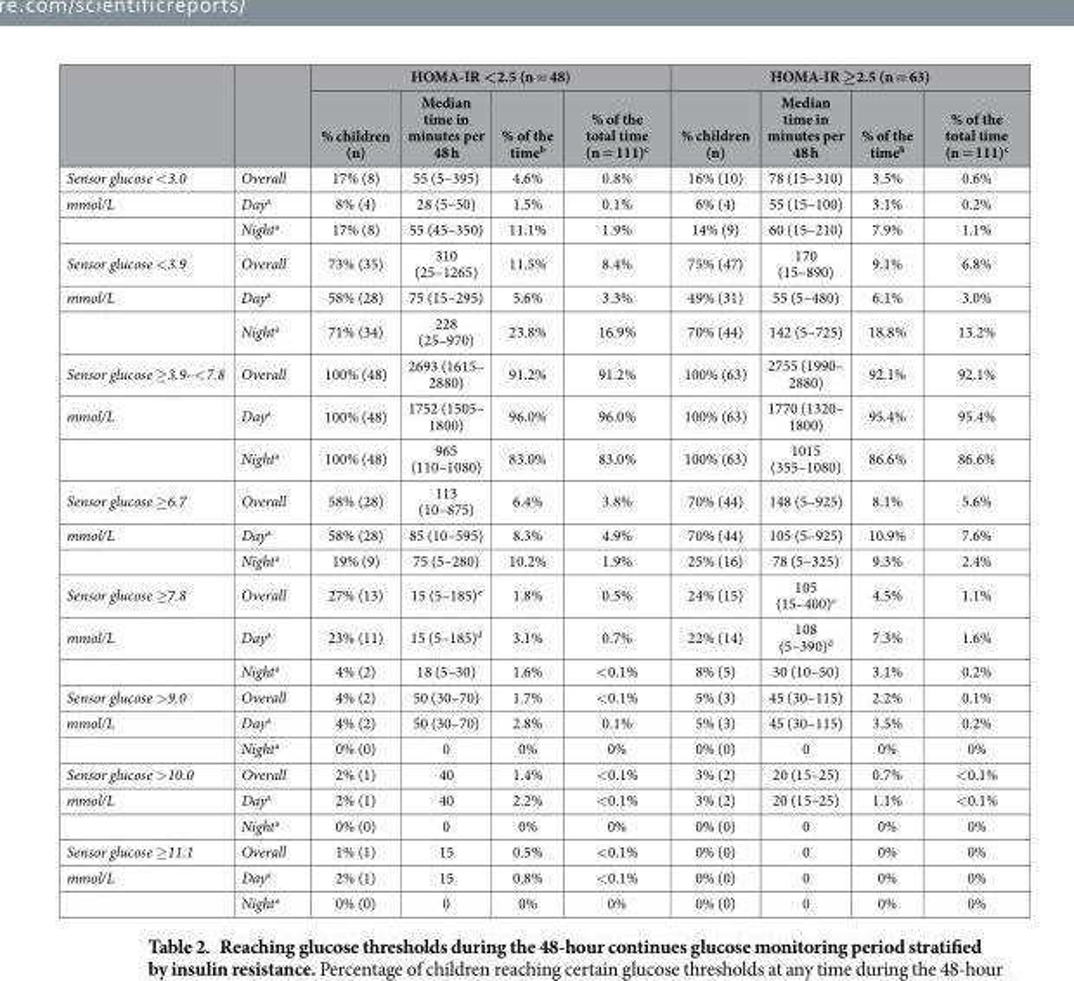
<table><thead><tr><td rowspan="2"></td><td rowspan="2"></td><td colspan="4">HOMA-IR &lt;2.5 (n = 48)</td><td colspan="4">HOMA-IR ≥2.5 (n = 63)</td></tr><tr><td>% children (n)</td><td>Median time in minutes per 48 h</td><td>% of the time<sup>b</sup></td><td>% of the total time (n = 111)<sup>c</sup></td><td>% children (n)</td><td>Median time in minutes per 48 h</td><td>% of the time<sup>b</sup></td><td>% of the total time (n = 111)<sup>c</sup></td></tr></thead><tbody><tr><td>Sensor glucose &lt; 3.0</td><td>Overall</td><td>17% (8)</td><td>55 (5–395)</td><td>4.6%</td><td>0.8%</td><td>16% (10)</td><td>78 (15–310)</td><td>3.5%</td><td>0.6%</td></tr><tr><td rowspan="2">mmol/L</td><td>Day<sup>a</sup></td><td>8% (4)</td><td>28 (5–50)</td><td>1.5%</td><td>0.1%</td><td>6% (4)</td><td>55 (15–100)</td><td>3.1%</td><td>0.2%</td></tr><tr><td>Night<sup>a</sup></td><td>17% (8)</td><td>55 (45–350)</td><td>11.1%</td><td>1.9%</td><td>14% (9)</td><td>60 (15–210)</td><td>7.9%</td><td>1.1%</td></tr><tr><td>Sensor glucose &lt; 3.9</td><td>Overall</td><td>73% (35)</td><td>310 (25–1265)</td><td>11.5%</td><td>8.4%</td><td>75% (47)</td><td>170 (15–890)</td><td>9.1%</td><td>6.8%</td></tr><tr><td rowspan="2">mmol/L</td><td>Day<sup>a</sup></td><td>58% (28)</td><td>75 (15–295)</td><td>5.6%</td><td>3.3%</td><td>49% (31)</td><td>55 (5–480)</td><td>6.1%</td><td>3.0%</td></tr><tr><td>Night<sup>a</sup></td><td>71% (34)</td><td>228 (25–970)</td><td>23.8%</td><td>16.9%</td><td>70% (44)</td><td>142 (5–725)</td><td>18.8%</td><td>13.2%</td></tr><tr><td>Sensor glucose ≥3.9–&lt; 7.8</td><td>Overall</td><td>100% (48)</td><td>2693 (1615– 2880)</td><td>91.2%</td><td>91.2%</td><td>100% (63)</td><td>2755 (1990– 2880)</td><td>92.1%</td><td>92.1%</td></tr><tr><td rowspan="2">mmol/L</td><td>Day<sup>a</sup></td><td>100% (48)</td><td>1752 (1505– 1800)</td><td>96.0%</td><td>96.0%</td><td>100% (63)</td><td>1770 (1320– 1800)</td><td>95.4%</td><td>95.4%</td></tr><tr><td>Night<sup>a</sup></td><td>100% (48)</td><td>965 (110–1080)</td><td>83.0%</td><td>83.0%</td><td>100% (63)</td><td>1015 (355–1080)</td><td>86.6%</td><td>86.6%</td></tr><tr><td>Sensor glucose ≥6.7</td><td>Overall</td><td>58% (28)</td><td>113 (10–875)</td><td>6.4%</td><td>3.8%</td><td>70% (44)</td><td>148 (5–925)</td><td>8.1%</td><td>5.6%</td></tr><tr><td rowspan="2">mmol/L</td><td>Day<sup>a</sup></td><td>58% (28)</td><td>85 (10–595)</td><td>8.3%</td><td>4.9%</td><td>70% (44)</td><td>105 (5–925)</td><td>10.9%</td><td>7.6%</td></tr><tr><td>Night<sup>a</sup></td><td>19% (9)</td><td>75 (5–280)</td><td>10.2%</td><td>1.9%</td><td>25% (16)</td><td>78 (5–325)</td><td>9.3%</td><td>2.4%</td></tr><tr><td>Sensor glucose ≥7.8</td><td>Overall</td><td>27% (13)</td><td>15 (5–185)<sup>e</sup></td><td>1.8%</td><td>0.5%</td><td>24% (15)</td><td>105 (15–400)<sup>e</sup></td><td>4.5%</td><td>1.1%</td></tr><tr><td rowspan="2">mmol/L</td><td>Day<sup>a</sup></td><td>23% (11)</td><td>15 (5–185)<sup>d</sup></td><td>3.1%</td><td>0.7%</td><td>22% (14)</td><td>108 (5–390)<sup>d</sup></td><td>7.3%</td><td>1.6%</td></tr><tr><td>Night<sup>a</sup></td><td>4% (2)</td><td>18 (5–30)</td><td>1.6%</td><td>&lt; 0.1%</td><td>8% (5)</td><td>30 (10–50)</td><td>3.1%</td><td>0.2%</td></tr><tr><td>Sensor glucose &gt;9.0</td><td>Overall</td><td>4% (2)</td><td>50 (30–70)</td><td>1.7%</td><td>&lt; 0.1%</td><td>5% (3)</td><td>45 (30–115)</td><td>2.2%</td><td>0.1%</td></tr><tr><td rowspan="2">mmol/L</td><td>Day<sup>a</sup></td><td>4% (2)</td><td>50 (30–70)</td><td>2.8%</td><td>0.1%</td><td>5% (3)</td><td>45 (30–115)</td><td>3.5%</td><td>0.2%</td></tr><tr><td>Night<sup>a</sup></td><td>0% (0)</td><td>0</td><td>0%</td><td>0%</td><td>0% (0)</td><td>0</td><td>0%</td><td>0%</td></tr><tr><td>Sensor glucose &gt;10.0</td><td>Overall</td><td>2% (1)</td><td>40</td><td>1.4%</td><td>&lt; 0.1%</td><td>3% (2)</td><td>20 (15–25)</td><td>0.7%</td><td>&lt; 0.1%</td></tr><tr><td rowspan="2">mmol/L</td><td>Day<sup>a</sup></td><td>2% (1)</td><td>40</td><td>2.2%</td><td>&lt; 0.1%</td><td>3% (2)</td><td>20 (15–25)</td><td>1.1%</td><td>&lt; 0.1%</td></tr><tr><td>Night<sup>a</sup></td><td>0% (0)</td><td>0</td><td>0%</td><td>0%</td><td>0% (0)</td><td>0</td><td>0%</td><td>0%</td></tr><tr><td>Sensor glucose ≥11.1</td><td>Overall</td><td>1% (1)</td><td>15</td><td>0.5%</td><td>&lt; 0.1%</td><td>0% (0)</td><td>0</td><td>0%</td><td>0%</td></tr><tr><td rowspan="2">mmol/L</td><td>Day<sup>a</sup></td><td>2% (1)</td><td>15</td><td>0.8%</td><td>&lt; 0.1%</td><td>0% (0)</td><td>0</td><td>0%</td><td>0%</td></tr><tr><td>Night<sup>a</sup></td><td>0% (0)</td><td>0</td><td>0%</td><td>0%</td><td>0% (0)</td><td>0</td><td>0%</td><td>0%</td></tr></tbody></table>